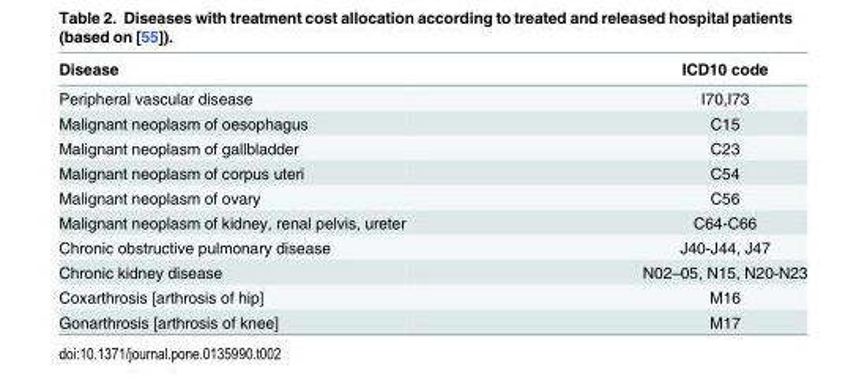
<table><thead><tr><td>Disease</td><td>ICD10 code</td></tr></thead><tbody><tr><td>Peripheral vascular disease</td><td>I70,I73</td></tr><tr><td>Malignant neoplasm of oesophagus</td><td>C15</td></tr><tr><td>Malignant neoplasm of gallbladder</td><td>C23</td></tr><tr><td>Malignant neoplasm of corpus uteri</td><td>C54</td></tr><tr><td>Malignant neoplasm of ovary</td><td>C56</td></tr><tr><td>Malignant neoplasm of kidney, renal pelvis, ureter</td><td>C64-C66</td></tr><tr><td>Chronic obstructive pulmonary disease</td><td>J40-J44, J47</td></tr><tr><td>Chronic kidney disease</td><td>N02–05, N15, N20-N23</td></tr><tr><td>Coxarthrosis [arthrosis of hip]</td><td>M16</td></tr><tr><td>Gonarthrosis [arthrosis of knee]</td><td>M17</td></tr></tbody></table>